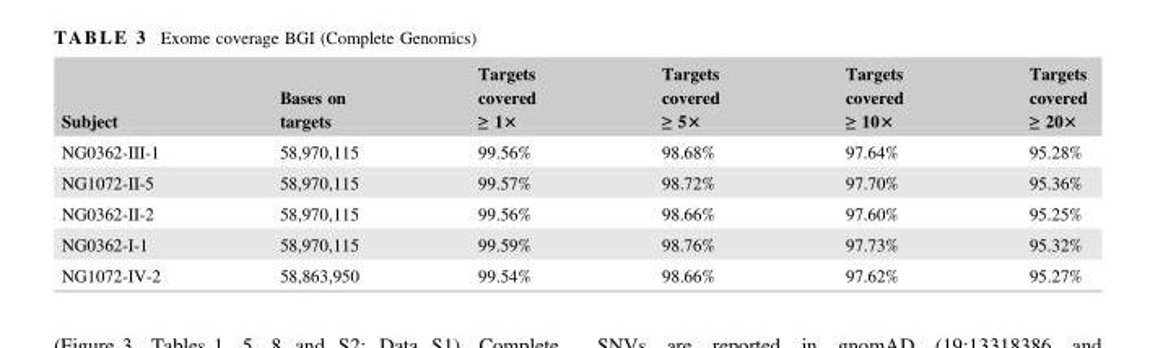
<table><thead><tr><td>Subject</td><td>Bases on targets</td><td>Targets covered ≥ 1×</td><td>Targets covered ≥ 5×</td><td>Targets covered ≥ 10×</td><td>Targets covered ≥ 20×</td></tr></thead><tbody><tr><td>NG0362-III-1</td><td>58,970,115</td><td>99.56%</td><td>98.68%</td><td>97.64%</td><td>95.28%</td></tr><tr><td>NG1072-II-5</td><td>58,970,115</td><td>99.57%</td><td>98.72%</td><td>97.70%</td><td>95.36%</td></tr><tr><td>NG0362-II-2</td><td>58,970,115</td><td>99.56%</td><td>98.66%</td><td>97.60%</td><td>95.25%</td></tr><tr><td>NG0362-I-1</td><td>58,970,115</td><td>99.59%</td><td>98.76%</td><td>97.73%</td><td>95.32%</td></tr><tr><td>NG1072-IV-2</td><td>58,863,950</td><td>99.54%</td><td>98.66%</td><td>97.62%</td><td>95.27%</td></tr></tbody></table>